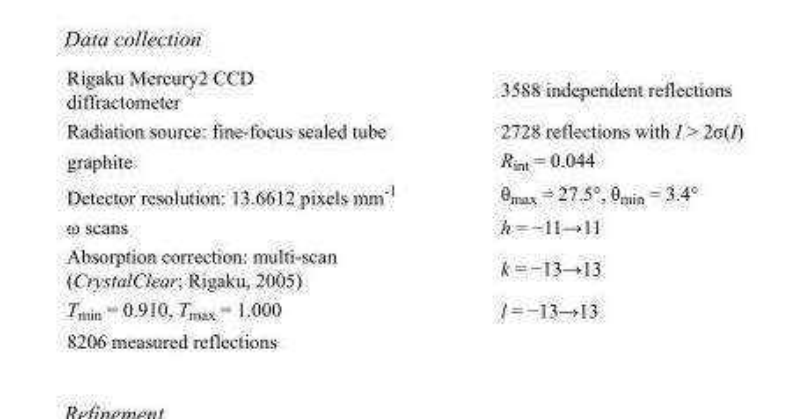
<table><tbody><tr><td>Rigaku Mercury2 CCD diffractometer</td><td>3588 independent reflections</td></tr><tr><td>Radiation source: fine-focus sealed tube</td><td>2728 reflections with I &gt; 2σ(I)</td></tr><tr><td>graphite</td><td>R<sub>int</sub> = 0.044</td></tr><tr><td>Detector resolution: 13.6612 pixels mm<sup>-1</sup></td><td>θ<sub>max</sub> = 27.5°, θ<sub>min</sub> = 3.4°</td></tr><tr><td>ω scans</td><td>h = −11→11</td></tr><tr><td>Absorption correction: multi-scan (CrystalClear; Rigaku, 2005)</td><td>k = −13→13</td></tr><tr><td>T<sub>min</sub> = 0.910, T<sub>max</sub> = 1.000</td><td>l = −13→13</td></tr><tr><td>8206 measured reflections</td><td></td></tr></tbody></table>